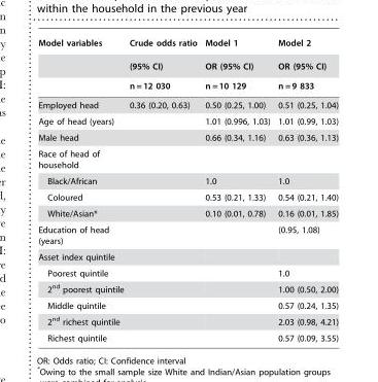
<table><thead><tr><td rowspan="3">Model variables</td><td rowspan="3">Crude odds ratio (95% CI) n = 12 030</td><td rowspan="3">Model 1 OR (95% CI) n = 10 129</td><td rowspan="3">Model 2 OR (95% CI) n = 9 833</td></tr><tr></tr><tr></tr></thead><tbody><tr><td>Employed head</td><td>0.36 (0.20, 0.63)</td><td>0.50 (0.25, 1.00)</td><td>0.51 (0.25, 1.04)</td></tr><tr><td>Age of head (years)</td><td></td><td>1.01 (0.996, 1.03)</td><td>1.01 (0.99, 1.03)</td></tr><tr><td>Male head</td><td></td><td>0.66 (0.34, 1.16)</td><td>0.63 (0.36, 1.13)</td></tr><tr><td colspan="4">Race of head of household</td></tr><tr><td>Black/African</td><td></td><td>1.0</td><td>1.0</td></tr><tr><td>Coloured</td><td></td><td>0.53 (0.21, 1.33)</td><td>0.54 (0.21, 1.40)</td></tr><tr><td>White/Asian*</td><td></td><td>0.10 (0.01, 0.78)</td><td>0.16 (0.01, 1.85)</td></tr><tr><td>Education of head (years)</td><td></td><td></td><td>(0.95, 1.08)</td></tr><tr><td colspan="4">Asset index quintile</td></tr><tr><td>Poorest quintile</td><td></td><td></td><td>1.0</td></tr><tr><td>2<sup>nd</sup> poorest quintile</td><td></td><td></td><td>1.00 (0.50, 2.00)</td></tr><tr><td>Middle quintile</td><td></td><td></td><td>0.57 (0.24, 1.35)</td></tr><tr><td>2<sup>nd</sup> richest quintile</td><td></td><td></td><td>2.03 (0.98, 4.21)</td></tr><tr><td>Richest quintile</td><td></td><td></td><td>0.57 (0.09, 3.55)</td></tr></tbody></table>